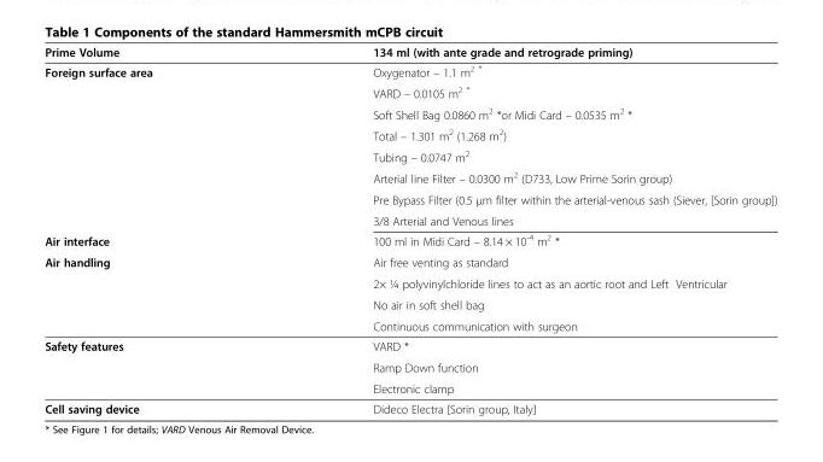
<table><thead><tr><td>Prime Volume</td><td>134 ml (with ante grade and retrograde priming)</td></tr></thead><tbody><tr><td rowspan="8">Foreign surface area</td><td>Oxygenator – 1.1 m<sup>2 *</sup></td></tr><tr><td>VARD – 0.0105 m<sup>2 *</sup></td></tr><tr><td>Soft Shell Bag 0.0860 m<sup>2</sup> *or Midi Card – 0.0535 m<sup>2</sup> *</td></tr><tr><td>Total – 1.301 m<sup>2</sup> (1.268 m<sup>2</sup>)</td></tr><tr><td>Tubing – 0.0747 m<sup>2</sup></td></tr><tr><td>Arterial line Filter – 0.0300 m<sup>2</sup> (D733, Low Prime Sorin group)</td></tr><tr><td>Pre Bypass Filter (0.5 μm filter within the arterial-venous sash (Siever, [Sorin group])</td></tr><tr><td>3/8 Arterial and Venous lines</td></tr><tr><td>Air interface</td><td>100 ml in Midi Card – 8.14 × 10<sup>-4</sup> m<sup>2</sup> *</td></tr><tr><td rowspan="4">Air handling</td><td>Air free venting as standard</td></tr><tr><td>2× ¼ polyvinylchloride lines to act as an aortic root and Left Ventricular</td></tr><tr><td>No air in soft shell bag</td></tr><tr><td>Continuous communication with surgeon</td></tr><tr><td rowspan="3">Safety features</td><td>VARD *</td></tr><tr><td>Ramp Down function</td></tr><tr><td>Electronic clamp</td></tr><tr><td>Cell saving device</td><td>Dideco Electra [Sorin group, Italy]</td></tr></tbody></table>